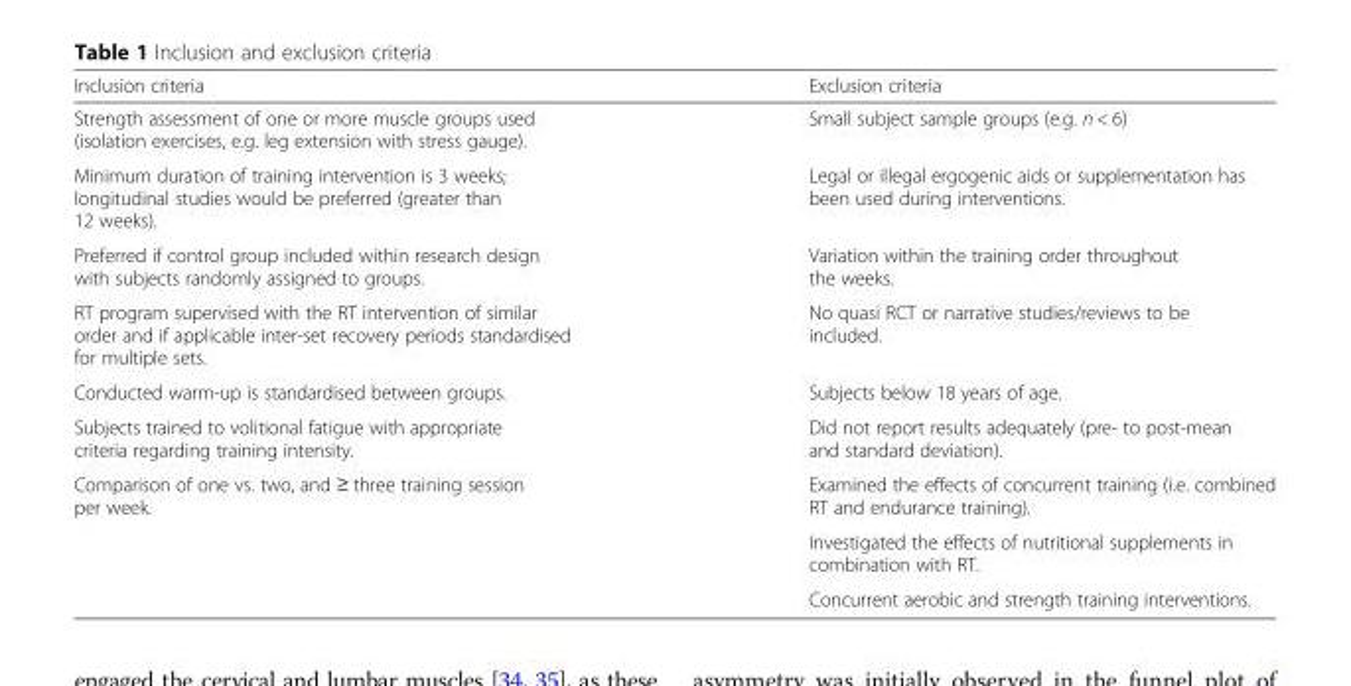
<table><thead><tr><td>Inclusion criteria</td><td>Exclusion criteria</td></tr></thead><tbody><tr><td>Strength assessment of one or more muscle groups used (isolation exercises, e.g. leg extension with stress gauge).</td><td>Small subject sample groups (e.g. n &lt; 6)</td></tr><tr><td>Minimum duration of training intervention is 3 weeks; longitudinal studies would be preferred (greater than 12 weeks).</td><td>Legal or illegal ergogenic aids or supplementation has been used during interventions.</td></tr><tr><td>Preferred if control group included within research design with subjects randomly assigned to groups.</td><td>Variation within the training order throughout the weeks.</td></tr><tr><td>RT program supervised with the RT intervention of similar order and if applicable inter-set recovery periods standardised for multiple sets.</td><td>No quasi RCT or narrative studies/reviews to be included.</td></tr><tr><td>Conducted warm-up is standardised between groups.</td><td>Subjects below 18 years of age.</td></tr><tr><td>Subjects trained to volitional fatigue with appropriate criteria regarding training intensity.</td><td>Did not report results adequately (pre- to post-mean and standard deviation).</td></tr><tr><td rowspan="3">Comparison of one vs. two, and ≥ three training session per week.</td><td>Examined the effects of concurrent training (i.e. combined RT and endurance training).</td></tr><tr><td>Investigated the effects of nutritional supplements in combination with RT.</td></tr><tr><td>Concurrent aerobic and strength training interventions.</td></tr></tbody></table>